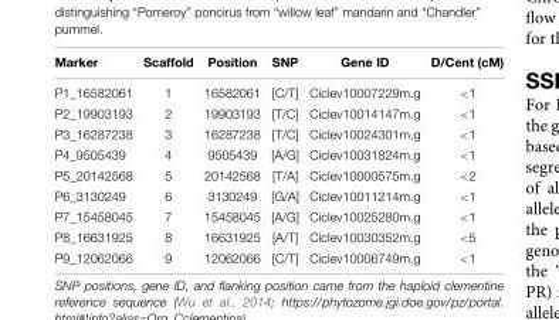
<table><thead><tr><td>Marker</td><td>Scaffold</td><td>Position</td><td>SNP</td><td>Gene ID</td><td>D/Cent (cM)</td></tr></thead><tbody><tr><td>P1_16582061</td><td>1</td><td>16582061</td><td>[C/T]</td><td>Ciclev10007229m.g</td><td>&lt;1</td></tr><tr><td>P2_19903193</td><td>2</td><td>19903193</td><td>[T/C]</td><td>Ciclev10014147m.g</td><td>&lt;1</td></tr><tr><td>P3_16287238</td><td>3</td><td>16287238</td><td>[T/C]</td><td>Ciclev10024301m.g</td><td>&lt;1</td></tr><tr><td>P4_9505439</td><td>4</td><td>9505439</td><td>[A/G]</td><td>Ciclev10031824m.g</td><td>&lt;1</td></tr><tr><td>P5_20142568</td><td>5</td><td>20142568</td><td>[T/A]</td><td>Ciclev10000575m.g</td><td>&lt;2</td></tr><tr><td>P6_3130249</td><td>6</td><td>3130249</td><td>[G/A]</td><td>Ciclev10011214m.g</td><td>&lt;1</td></tr><tr><td>P7_15458045</td><td>7</td><td>15458045</td><td>[A/G]</td><td>Ciclev10025280m.g</td><td>&lt;1</td></tr><tr><td>P8_16631925</td><td>8</td><td>16631925</td><td>[A/T]</td><td>Ciclev10030352m.g</td><td>&lt;5</td></tr><tr><td>P9_12062066</td><td>9</td><td>12062066</td><td>[C/T]</td><td>Ciclev10006749m.g</td><td>&lt;1</td></tr></tbody></table>